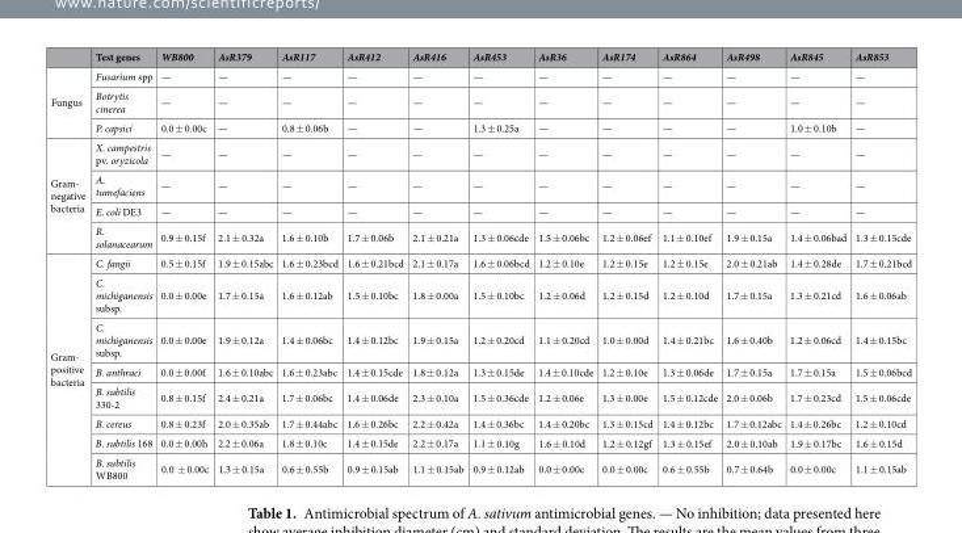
<table><thead><tr><td></td><td>Test genes</td><td>WB800</td><td>AsR379</td><td>AsR117</td><td>AsR412</td><td>AsR416</td><td>AsR453</td><td>AsR36</td><td>AsR174</td><td>AsR864</td><td>AsR498</td><td>AsR845</td><td>AsR853</td></tr></thead><tbody><tr><td rowspan="3">Fungus</td><td>Fusarium spp</td><td>—</td><td>—</td><td>—</td><td>—</td><td>—</td><td>—</td><td>—</td><td>—</td><td>—</td><td>—</td><td>—</td><td>—</td></tr><tr><td>Botrytis cinerea</td><td>—</td><td>—</td><td>—</td><td>—</td><td>—</td><td>—</td><td>—</td><td>—</td><td>—</td><td>—</td><td>—</td><td>—</td></tr><tr><td>P. capsici</td><td>0.0 ± 0.00c</td><td>—</td><td>0.8 ± 0.06b</td><td>—</td><td>—</td><td>1.3 ± 0.25a</td><td>—</td><td>—</td><td>—</td><td>—</td><td>1.0 ± 0.10b</td><td>—</td></tr><tr><td rowspan="4">Gram- negative bacteria</td><td>X. campestris pv. oryzicola</td><td>—</td><td>—</td><td>—</td><td>—</td><td>—</td><td>—</td><td>—</td><td>—</td><td>—</td><td>—</td><td>—</td><td>—</td></tr><tr><td>A. tumefaciens</td><td>—</td><td>—</td><td>—</td><td>—</td><td>—</td><td>—</td><td>—</td><td>—</td><td>—</td><td>—</td><td>—</td><td>—</td></tr><tr><td>E. coli DE3</td><td>—</td><td>—</td><td>—</td><td>—</td><td>—</td><td>—</td><td>—</td><td>—</td><td>—</td><td>—</td><td>—</td><td>—</td></tr><tr><td>R. solanacearum</td><td>0.9 ± 0.15f</td><td>2.1 ± 0.32a</td><td>1.6 ± 0.10b</td><td>1.7 ± 0.06b</td><td>2.1 ± 0.21a</td><td>1.3 ± 0.06cde</td><td>1.5 ± 0.06bc</td><td>1.2 ± 0.06ef</td><td>1.1 ± 0.10ef</td><td>1.9 ± 0.15a</td><td>1.4 ± 0.06bad</td><td>1.3 ± 0.15cde</td></tr><tr><td rowspan="8">Gram- positive bacteria</td><td>C. fangii</td><td>0.5 ± 0.15f</td><td>1.9 ± 0.15abc</td><td>1.6 ± 0.23bcd</td><td>1.6 ± 0.21bcd</td><td>2.1 ± 0.17a</td><td>1.6 ± 0.06bcd</td><td>1.2 ± 0.10e</td><td>1.2 ± 0.15e</td><td>1.2 ± 0.15e</td><td>2.0 ± 0.21ab</td><td>1.4 ± 0.28de</td><td>1.7 ± 0.21bcd</td></tr><tr><td>C. michiganensis subsp.</td><td>0.0 ± 0.00e</td><td>1.7 ± 0.15a</td><td>1.6 ± 0.12ab</td><td>1.5 ± 0.10bc</td><td>1.8 ± 0.00a</td><td>1.5 ± 0.10bc</td><td>1.2 ± 0.06d</td><td>1.2 ± 0.15d</td><td>1.2 ± 0.10d</td><td>1.7 ± 0.15a</td><td>1.3 ± 0.21cd</td><td>1.6 ± 0.06ab</td></tr><tr><td>C. michiganensis subsp.</td><td>0.0 ± 0.00e</td><td>1.9 ± 0.12a</td><td>1.4 ± 0.06bc</td><td>1.4 ± 0.12bc</td><td>1.9 ± 0.15a</td><td>1.2 ± 0.20cd</td><td>1.1 ± 0.20cd</td><td>1.0 ± 0.00d</td><td>1.4 ± 0.21bc</td><td>1.6 ± 0.40b</td><td>1.2 ± 0.06cd</td><td>1.4 ± 0.15bc</td></tr><tr><td>B. anthraci</td><td>0.0 ± 0.00f</td><td>1.6 ± 0.10abc</td><td>1.6 ± 0.23abc</td><td>1.4 ± 0.15cde</td><td>1.8 ± 0.12a</td><td>1.3 ± 0.15de</td><td>1.4 ± 0.10cde</td><td>1.2 ± 0.10e</td><td>1.3 ± 0.06de</td><td>1.7 ± 0.15a</td><td>1.7 ± 0.15a</td><td>1.5 ± 0.06bcd</td></tr><tr><td>B. subtilis 330-2</td><td>0.8 ± 0.15f</td><td>2.4 ± 0.21a</td><td>1.7 ± 0.06bc</td><td>1.4 ± 0.06de</td><td>2.3 ± 0.10a</td><td>1.5 ± 0.36cde</td><td>1.2 ± 0.06e</td><td>1.3 ± 0.00e</td><td>1.5 ± 0.12cde</td><td>2.0 ± 0.06b</td><td>1.7 ± 0.23cd</td><td>1.5 ± 0.06cde</td></tr><tr><td>B. cereus</td><td>0.8 ± 0.23f</td><td>2.0 ± 0.35ab</td><td>1.7 ± 0.44abc</td><td>1.6 ± 0.26bc</td><td>2.2 ± 0.42a</td><td>1.4 ± 0.36bc</td><td>1.4 ± 0.20bc</td><td>1.3 ± 0.15cd</td><td>1.4 ± 0.12bc</td><td>1.7 ± 0.12abc</td><td>1.4 ± 0.26bc</td><td>1.2 ± 0.10cd</td></tr><tr><td>B. subtilis 168</td><td>0.0 ± 0.00h</td><td>2.2 ± 0.06a</td><td>1.8 ± 0.10c</td><td>1.4 ± 0.15de</td><td>2.2 ± 0.17a</td><td>1.1 ± 0.10g</td><td>1.6 ± 0.10d</td><td>1.2 ± 0.12gf</td><td>1.3 ± 0.15ef</td><td>2.0 ± 0.10ab</td><td>1.9 ± 0.17bc</td><td>1.6 ± 0.15d</td></tr><tr><td>B. subtilis WB800</td><td>0.0 ± 0.00c</td><td>1.3 ± 0.15a</td><td>0.6 ± 0.55b</td><td>0.9 ± 0.15ab</td><td>1.1 ± 0.15ab</td><td>0.9 ± 0.12ab</td><td>0.0 ± 0.00c</td><td>0.0 ± 0.00c</td><td>0.6 ± 0.55b</td><td>0.7 ± 0.64b</td><td>0.0 ± 0.00c</td><td>1.1 ± 0.15ab</td></tr></tbody></table>